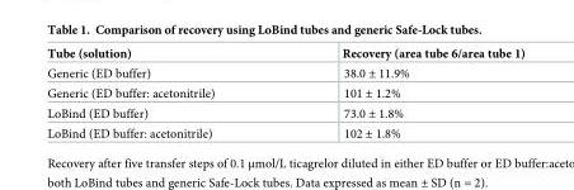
<table><thead><tr><td>Tube (solution)</td><td>Recovery (area tube 6/area tube 1)</td></tr></thead><tbody><tr><td>Generic (ED buffer)</td><td>38.0 ± 11.9%</td></tr><tr><td>Generic (ED buffer: acetonitrile)</td><td>101 ± 1.2%</td></tr><tr><td>LoBind (ED buffer)</td><td>73.0 ± 1.8%</td></tr><tr><td>LoBind (ED buffer: acetonitrile)</td><td>102 ± 1.8%</td></tr></tbody></table>